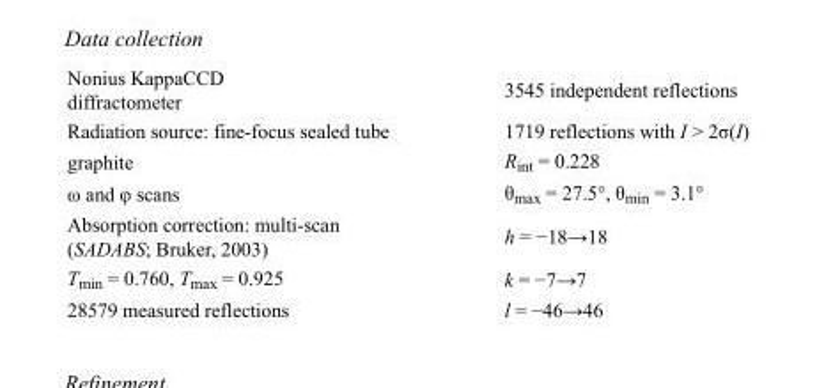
<table><tbody><tr><td>Nonius KappaCCD diffractometer</td><td>3545 independent reflections</td></tr><tr><td>Radiation source: fine-focus sealed tube</td><td>1719 reflections with I &gt; 2σ(I)</td></tr><tr><td>graphite</td><td>R<sub>int</sub> = 0.228</td></tr><tr><td>ω and φ scans</td><td>θ<sub>max</sub> = 27.5°, θ<sub>min</sub> = 3.1°</td></tr><tr><td>Absorption correction: multi-scan (SADABS; Bruker, 2003)</td><td>h = −18→18</td></tr><tr><td>T<sub>min</sub> = 0.760, T<sub>max</sub> = 0.925</td><td>k = −7→7</td></tr><tr><td>28579 measured reflections</td><td>l = −46→46</td></tr></tbody></table>